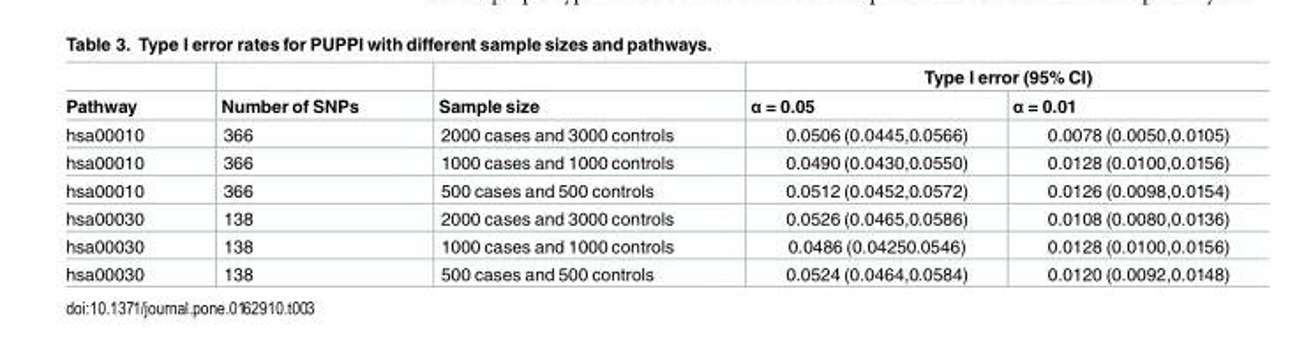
<table><thead><tr><td rowspan="2">Pathway</td><td rowspan="2">Number of SNPs</td><td rowspan="2">Sample size</td><td colspan="2">Type I error (95% CI)</td></tr><tr><td>α = 0.05</td><td>α = 0.01</td></tr></thead><tbody><tr><td>hsa00010</td><td>366</td><td>2000 cases and 3000 controls</td><td>0.0506 (0.0445,0.0566)</td><td>0.0078 (0.0050,0.0105)</td></tr><tr><td>hsa00010</td><td>366</td><td>1000 cases and 1000 controls</td><td>0.0490 (0.0430,0.0550)</td><td>0.0128 (0.0100,0.0156)</td></tr><tr><td>hsa00010</td><td>366</td><td>500 cases and 500 controls</td><td>0.0512 (0.0452,0.0572)</td><td>0.0126 (0.0098,0.0154)</td></tr><tr><td>hsa00030</td><td>138</td><td>2000 cases and 3000 controls</td><td>0.0526 (0.0465,0.0586)</td><td>0.0108 (0.0080,0.0136)</td></tr><tr><td>hsa00030</td><td>138</td><td>1000 cases and 1000 controls</td><td>0.0486 (0.04250.0546)</td><td>0.0128 (0.0100,0.0156)</td></tr><tr><td>hsa00030</td><td>138</td><td>500 cases and 500 controls</td><td>0.0524 (0.0464,0.0584)</td><td>0.0120 (0.0092,0.0148)</td></tr></tbody></table>